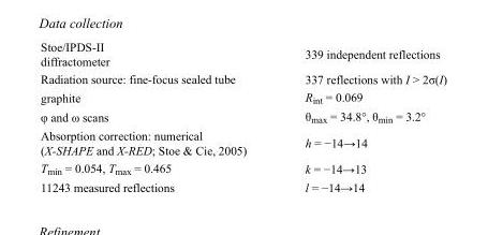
<table><tbody><tr><td>Stoe/IPDS-II diffractometer</td><td>339 independent reflections</td></tr><tr><td>Radiation source: fine-focus sealed tube</td><td>337 reflections with I &gt; 2σ(I)</td></tr><tr><td>graphite</td><td>R<sub>int</sub> = 0.069</td></tr><tr><td>φ and ω scans</td><td>θ<sub>max</sub> = 34.8°, θ<sub>min</sub> = 3.2°</td></tr><tr><td>Absorption correction: numerical (X-SHAPE and X-RED; Stoe &amp; Cie, 2005)</td><td>h = −14→14</td></tr><tr><td>T<sub>min</sub> = 0.054, T<sub>max</sub> = 0.465</td><td>k = −14→13</td></tr><tr><td>11243 measured reflections</td><td>l = −14→14</td></tr></tbody></table>